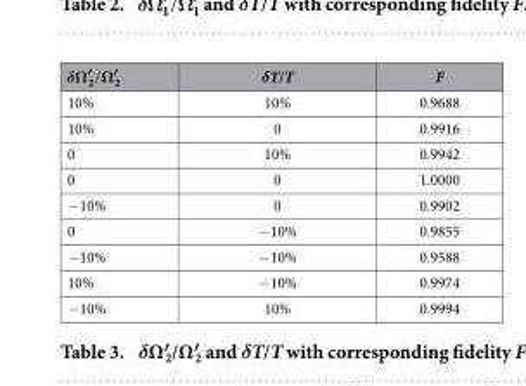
<table><thead><tr><td>δΩ′ Ω′ / 2 2</td><td>δT/T</td><td>F</td></tr></thead><tbody><tr><td>10%</td><td>10%</td><td>0.9688</td></tr><tr><td>10%</td><td>0</td><td>0.9916</td></tr><tr><td>0</td><td>10%</td><td>0.9942</td></tr><tr><td>0</td><td>0</td><td>1.0000</td></tr><tr><td>− 10%</td><td>0</td><td>0.9902</td></tr><tr><td>0</td><td>− 10%</td><td>0.9855</td></tr><tr><td>− 10%</td><td>− 10%</td><td>0.9588</td></tr><tr><td>10%</td><td>− 10%</td><td>0.9974</td></tr><tr><td>− 10%</td><td>10%</td><td>0.9994</td></tr></tbody></table>